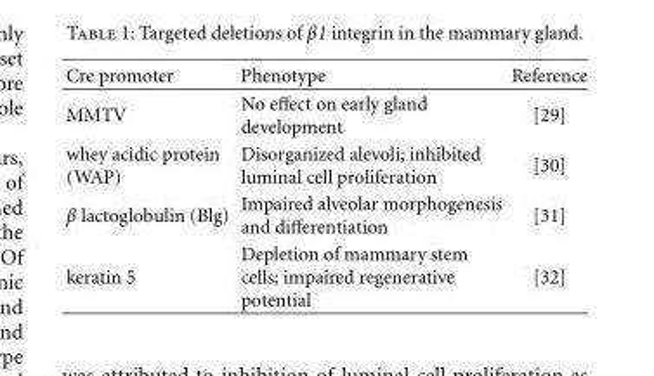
<table><thead><tr><td>Cre promoter</td><td>Phenotype</td><td>Reference</td></tr></thead><tbody><tr><td>MMTV</td><td>No effect on early gland development</td><td>[29]</td></tr><tr><td>whey acidic protein (WAP)</td><td>Disorganized alevoli; inhibited luminal cell proliferation</td><td>[30]</td></tr><tr><td>β lactoglobulin (Blg)</td><td>Impaired alveolar morphogenesis and differentiation</td><td>[31]</td></tr><tr><td>keratin 5</td><td>Depletion of mammary stem cells; impaired regenerative potential</td><td>[32]</td></tr></tbody></table>